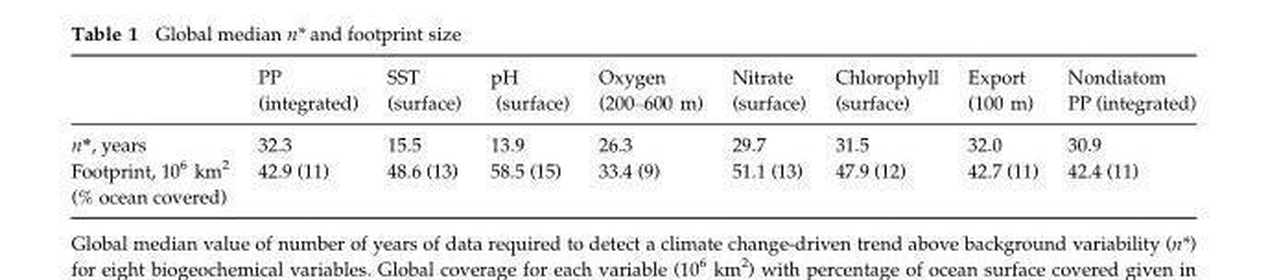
<table><thead><tr><td></td><td>PP (integrated)</td><td>SST (surface)</td><td>pH (surface)</td><td>Oxygen (200–600 m)</td><td>Nitrate (surface)</td><td>Chlorophyll (surface)</td><td>Export (100 m)</td><td>Nondiatom PP (integrated)</td></tr></thead><tbody><tr><td>n*, years</td><td>32.3</td><td>15.5</td><td>13.9</td><td>26.3</td><td>29.7</td><td>31.5</td><td>32.0</td><td>30.9</td></tr><tr><td>Footprint, 10<sup>6</sup> km<sup>2</sup> (% ocean covered)</td><td>42.9 (11)</td><td>48.6 (13)</td><td>58.5 (15)</td><td>33.4 (9)</td><td>51.1 (13)</td><td>47.9 (12)</td><td>42.7 (11)</td><td>42.4 (11)</td></tr></tbody></table>